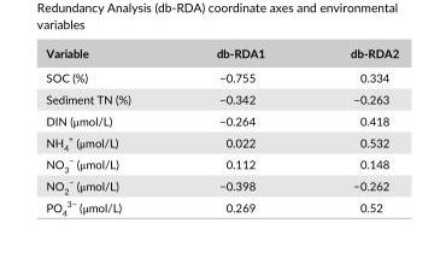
<table><thead><tr><td>Variable</td><td>db- RDA1</td><td>db- RDA2</td></tr></thead><tbody><tr><td>SOC (%)</td><td>−0.755</td><td>0.334</td></tr><tr><td>Sediment TN (%)</td><td>−0.342</td><td>−0.263</td></tr><tr><td>DIN (μmol/L)</td><td>−0.264</td><td>0.418</td></tr><tr><td>NH<sub>4</sub> <sup>+</sup> (μmol/L)</td><td>0.022</td><td>0.532</td></tr><tr><td>NO<sub>3</sub> <sup>−</sup> (μmol/L)</td><td>0.112</td><td>0.148</td></tr><tr><td>NO<sub>2</sub> <sup>−</sup> (μmol/L)</td><td>−0.398</td><td>−0.262</td></tr><tr><td>PO<sub>4</sub> <sup>3−</sup> (μmol/L)</td><td>0.269</td><td>0.52</td></tr></tbody></table>